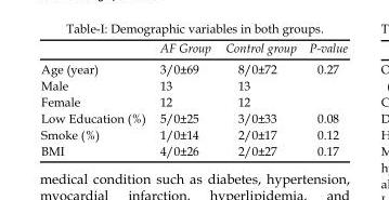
<table><thead><tr><td></td><td>AF Group</td><td>Control group</td><td>P-value</td></tr></thead><tbody><tr><td>Age (year)</td><td>3/0±69</td><td>8/0±72</td><td>0.27</td></tr><tr><td>Male</td><td>13</td><td>13</td><td></td></tr><tr><td>Female</td><td>12</td><td>12</td><td></td></tr><tr><td>Low Education (%)</td><td>5/0±25</td><td>3/0±33</td><td>0.08</td></tr><tr><td>Smoke (%)</td><td>1/0±14</td><td>2/0±17</td><td>0.12</td></tr><tr><td>BMI</td><td>4/0±26</td><td>2/0±27</td><td>0.17</td></tr></tbody></table>